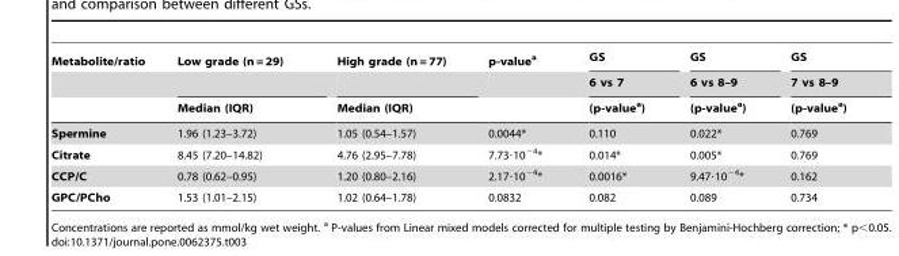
<table><thead><tr><td rowspan="3">Metabolite/ratio</td><td rowspan="3">Low grade (n = 29) Median (IQR)</td><td rowspan="3">High grade (n = 77) Median (IQR)</td><td rowspan="3">p-value<sup>a</sup></td><td rowspan="3">GS 6 vs 7 (p-value<sup>a</sup>)</td><td rowspan="3">GS 6 vs 8–9 (p-value<sup>a</sup>)</td><td rowspan="3">GS 7 vs 8–9 (p-value<sup>a</sup>)</td></tr><tr></tr><tr></tr></thead><tbody><tr><td>Spermine</td><td>1.96 (1.23–3.72)</td><td>1.05 (0.54–1.57)</td><td>0.0044*</td><td>0.110</td><td>0.022*</td><td>0.769</td></tr><tr><td>Citrate</td><td>8.45 (7.20–14.82)</td><td>4.76 (2.95–7.78)</td><td>7.73·10<sup>−4</sup>*</td><td>0.014*</td><td>0.005*</td><td>0.769</td></tr><tr><td>CCP/C</td><td>0.78 (0.62–0.95)</td><td>1.20 (0.80–2.16)</td><td>2.17·10<sup>−4</sup>*</td><td>0.0016*</td><td>9.47·10<sup>−4</sup>*</td><td>0.162</td></tr><tr><td>GPC/PCho</td><td>1.53 (1.01–2.15)</td><td>1.02 (0.64–1.78)</td><td>0.0832</td><td>0.082</td><td>0.089</td><td>0.734</td></tr></tbody></table>